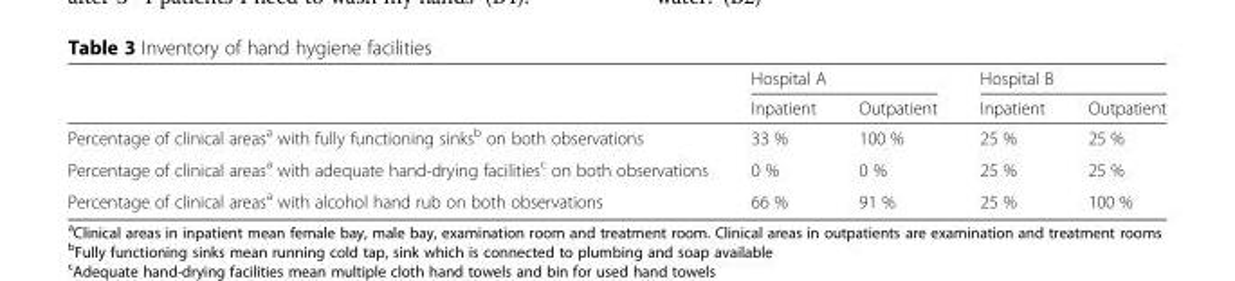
<table><thead><tr><td rowspan="2"></td><td colspan="2">Hospital A</td><td colspan="2">Hospital B</td></tr><tr><td>Inpatient</td><td>Outpatient</td><td>Inpatient</td><td>Outpatient</td></tr></thead><tbody><tr><td>Percentage of clinical areas<sup>a</sup> with fully functioning sinks<sup>b</sup> on both observations</td><td>33 %</td><td>100 %</td><td>25 %</td><td>25 %</td></tr><tr><td>Percentage of clinical areas<sup>a</sup> with adequate hand-drying facilities<sup>c</sup> on both observations</td><td>0 %</td><td>0 %</td><td>25 %</td><td>25 %</td></tr><tr><td>Percentage of clinical areas<sup>a</sup> with alcohol hand rub on both observations</td><td>66 %</td><td>91 %</td><td>25 %</td><td>100 %</td></tr></tbody></table>